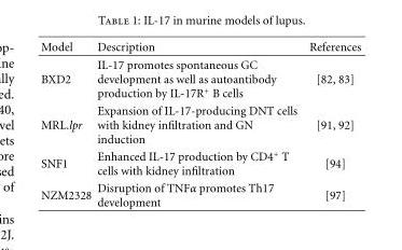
<table><thead><tr><td>Model</td><td>Description</td><td>References</td></tr></thead><tbody><tr><td>BXD2</td><td>IL-17 promotes spontaneous GC development as well as autoantibody production by IL-17R<sup>+</sup> B cells</td><td>[82, 83]</td></tr><tr><td>MRL.lpr</td><td>Expansion of IL-17-producing DNT cells with kidney infiltration and GN induction</td><td>[91, 92]</td></tr><tr><td>SNF1</td><td>Enhanced IL-17 production by CD4<sup>+</sup> T cells with kidney infiltration</td><td>[94]</td></tr><tr><td>NZM2328</td><td>Disruption of TNFα promotes Th17 development</td><td>[97]</td></tr></tbody></table>